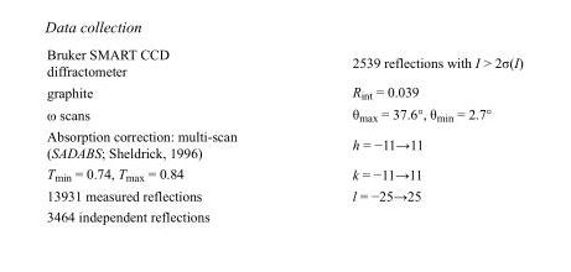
<table><tbody><tr><td>Bruker SMART CCD diffractometer</td><td>2539 reflections with I &gt; 2σ(I)</td></tr><tr><td>graphite</td><td>R<sub>int</sub> = 0.039</td></tr><tr><td>ω scans</td><td>θ<sub>max</sub> = 37.6°, θ<sub>min</sub> = 2.7°</td></tr><tr><td>Absorption correction: multi-scan (SADABS; Sheldrick, 1996)</td><td>h = −11→11</td></tr><tr><td>T<sub>min</sub> = 0.74, T<sub>max</sub> = 0.84</td><td>k = −11→11</td></tr><tr><td>13931 measured reflections</td><td>l = −25→25</td></tr><tr><td>3464 independent reflections</td><td></td></tr></tbody></table>